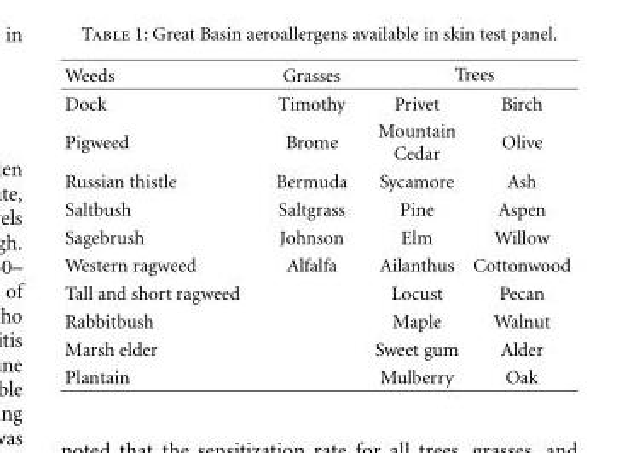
<table><thead><tr><td rowspan="2">Weeds Dock</td><td rowspan="2">Grasses Timothy</td><td colspan="2">Trees</td></tr><tr><td>Privet</td><td>Birch</td></tr></thead><tbody><tr><td>Pigweed</td><td>Brome</td><td>Mountain Cedar</td><td>Olive</td></tr><tr><td>Russian thistle</td><td>Bermuda</td><td>Sycamore</td><td>Ash</td></tr><tr><td>Saltbush</td><td>Saltgrass</td><td>Pine</td><td>Aspen</td></tr><tr><td>Sagebrush</td><td>Johnson</td><td>Elm</td><td>Willow</td></tr><tr><td>Western ragweed</td><td>Alfalfa</td><td>Ailanthus</td><td>Cottonwood</td></tr><tr><td>Tall and short ragweed</td><td></td><td>Locust</td><td>Pecan</td></tr><tr><td>Rabbitbush</td><td></td><td>Maple</td><td>Walnut</td></tr><tr><td>Marsh elder</td><td></td><td>Sweet gum</td><td>Alder</td></tr><tr><td>Plantain</td><td></td><td>Mulberry</td><td>Oak</td></tr></tbody></table>